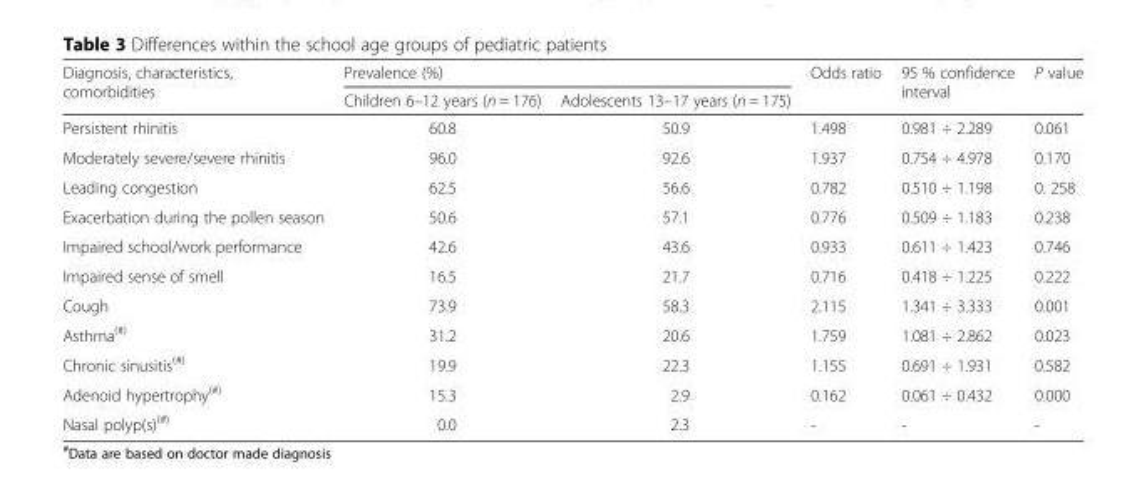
<table><thead><tr><td rowspan="2">Diagnosis, characteristics, comorbidities</td><td colspan="2">Prevalence (%)</td><td rowspan="2">Odds ratio</td><td rowspan="2">95 % confidence interval</td><td rowspan="2">P value</td></tr><tr><td>Children 6–12 years (n = 176)</td><td>Adolescents 13–17 years (n = 175)</td></tr></thead><tbody><tr><td>Persistent rhinitis</td><td>60.8</td><td>50.9</td><td>1.498</td><td>0.981 ÷ 2.289</td><td>0.061</td></tr><tr><td>Moderately severe/severe rhinitis</td><td>96.0</td><td>92.6</td><td>1.937</td><td>0.754 ÷ 4.978</td><td>0.170</td></tr><tr><td>Leading congestion</td><td>62.5</td><td>56.6</td><td>0.782</td><td>0.510 ÷ 1.198</td><td>0. 258</td></tr><tr><td>Exacerbation during the pollen season</td><td>50.6</td><td>57.1</td><td>0.776</td><td>0.509 ÷ 1.183</td><td>0.238</td></tr><tr><td>Impaired school/work performance</td><td>42.6</td><td>43.6</td><td>0.933</td><td>0.611 ÷ 1.423</td><td>0.746</td></tr><tr><td>Impaired sense of smell</td><td>16.5</td><td>21.7</td><td>0.716</td><td>0.418 ÷ 1.225</td><td>0.222</td></tr><tr><td>Cough</td><td>73.9</td><td>58.3</td><td>2.115</td><td>1.341 ÷ 3.333</td><td>0.001</td></tr><tr><td>Asthma<sup>(#)</sup></td><td>31.2</td><td>20.6</td><td>1.759</td><td>1.081 ÷ 2.862</td><td>0.023</td></tr><tr><td>Chronic sinusitis<sup>(#)</sup></td><td>19.9</td><td>22.3</td><td>1.155</td><td>0.691 ÷ 1.931</td><td>0.582</td></tr><tr><td>Adenoid hypertrophy<sup>(#)</sup></td><td>15.3</td><td>2.9</td><td>0.162</td><td>0.061 ÷ 0.432</td><td>0.000</td></tr><tr><td>Nasal polyp(s)<sup>(#)</sup></td><td>0.0</td><td>2.3</td><td>-</td><td>-</td><td>-</td></tr></tbody></table>